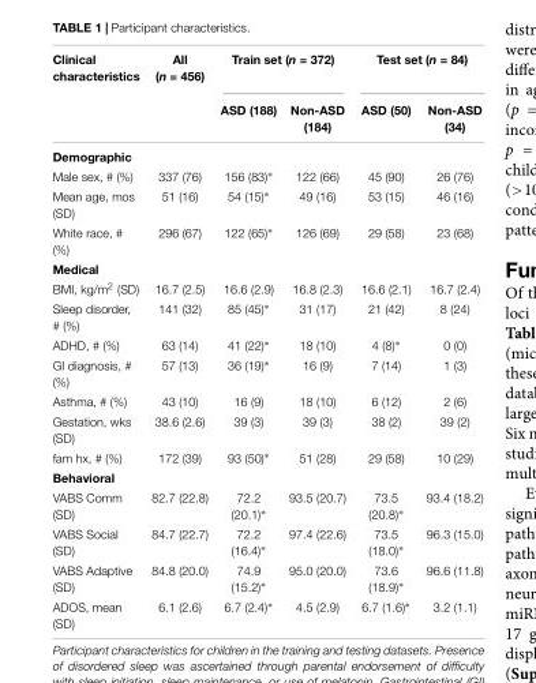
<table><thead><tr><td rowspan="2">Clinical characteristics</td><td rowspan="2">All (n = 456)</td><td colspan="2">Train set (n = 372)</td><td colspan="2">Test set (n = 84)</td></tr><tr><td>ASD (188)</td><td>Non-ASD (184)</td><td>ASD (50)</td><td>Non-ASD (34)</td></tr></thead><tbody><tr><td colspan="6">Demographic</td></tr><tr><td>Male sex, # (%)</td><td>337 (76)</td><td>156 (83)∗</td><td>122 (66)</td><td>45 (90)</td><td>26 (76)</td></tr><tr><td>Mean age, mos (SD)</td><td>51 (16)</td><td>54 (15)∗</td><td>49 (16)</td><td>53 (15)</td><td>46 (16)</td></tr><tr><td>White race, # (%)</td><td>296 (67)</td><td>122 (65)∗</td><td>126 (69)</td><td>29 (58)</td><td>23 (68)</td></tr><tr><td colspan="6">Medical</td></tr><tr><td>BMI, kg/m<sup>2</sup> (SD)</td><td>16.7 (2.5)</td><td>16.6 (2.9)</td><td>16.8 (2.3)</td><td>16.6 (2.1)</td><td>16.7 (2.4)</td></tr><tr><td>Sleep disorder, # (%)</td><td>141 (32)</td><td>85 (45)∗</td><td>31 (17)</td><td>21 (42)</td><td>8 (24)</td></tr><tr><td>ADHD, # (%)</td><td>63 (14)</td><td>41 (22)∗</td><td>18 (10)</td><td>4 (8)∗</td><td>0 (0)</td></tr><tr><td>GI diagnosis, # (%)</td><td>57 (13)</td><td>36 (19)∗</td><td>16 (9)</td><td>7 (14)</td><td>1 (3)</td></tr><tr><td>Asthma, # (%)</td><td>43 (10)</td><td>16 (9)</td><td>18 (10)</td><td>6 (12)</td><td>2 (6)</td></tr><tr><td>Gestation, wks (SD)</td><td>38.6 (2.6)</td><td>39 (3)</td><td>39 (3)</td><td>38 (2)</td><td>39 (2)</td></tr><tr><td>fam hx, # (%)</td><td>172 (39)</td><td>93 (50)∗</td><td>51 (28)</td><td>29 (58)</td><td>10 (29)</td></tr><tr><td colspan="6">Behavioral</td></tr><tr><td>VABS Comm (SD)</td><td>82.7 (22.8)</td><td>72.2 (20.1)∗</td><td>93.5 (20.7)</td><td>73.5 (20.8)∗</td><td>93.4 (18.2)</td></tr><tr><td>VABS Social (SD)</td><td>84.7 (22.7)</td><td>72.2 (16.4)∗</td><td>97.4 (22.6)</td><td>73.5 (18.0)∗</td><td>96.3 (15.0)</td></tr><tr><td>VABS Adaptive (SD)</td><td>84.8 (20.0)</td><td>74.9 (15.2)∗</td><td>95.0 (20.0)</td><td>73.6 (18.9)∗</td><td>96.6 (11.8)</td></tr><tr><td>ADOS, mean (SD)</td><td>6.1 (2.6)</td><td>6.7 (2.4)∗</td><td>4.5 (2.9)</td><td>6.7 (1.6)∗</td><td>3.2 (1.1)</td></tr></tbody></table>